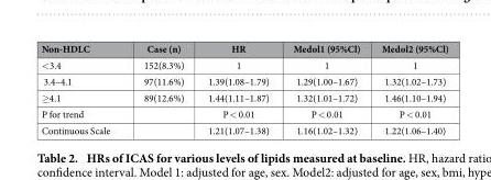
<table><thead><tr><td>Non-HDLC</td><td>Case (n)</td><td>HR</td><td>Medol1 (95%Cl)</td><td>Medol2 (95%Cl)</td></tr></thead><tbody><tr><td>&lt; 3.4</td><td>152(8.3%)</td><td>1</td><td>1</td><td>1</td></tr><tr><td>3.4–4.1</td><td>97(11.6%)</td><td>1.39(1.08–1.79)</td><td>1.29(1.00–1.67)</td><td>1.32(1.02–1.73)</td></tr><tr><td>≥ 4.1</td><td>89(12.6%)</td><td>1.44(1.11–1.87)</td><td>1.32(1.01–1.72)</td><td>1.46(1.10–1.94)</td></tr><tr><td>P for trend</td><td></td><td>P &lt; 0.01</td><td>P &lt; 0.01</td><td>P &lt; 0.01</td></tr><tr><td>Continuous Scale</td><td></td><td>1.21(1.07–1.38)</td><td>1.16(1.02–1.32)</td><td>1.22(1.06–1.40)</td></tr></tbody></table>